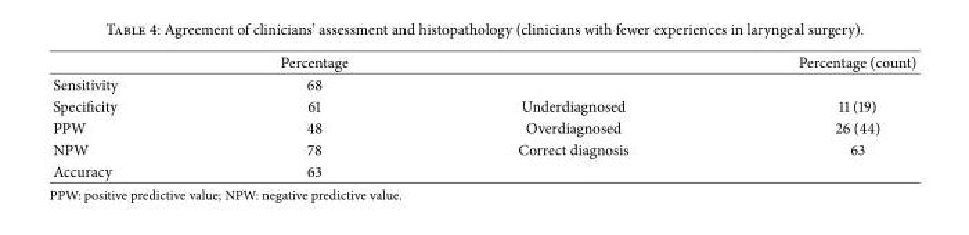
<table><thead><tr><td></td><td>Percentage</td><td></td><td>Percentage (count)</td></tr></thead><tbody><tr><td>Sensitivity</td><td>68</td><td></td><td></td></tr><tr><td>Specificity</td><td>61</td><td>Underdiagnosed</td><td>11 (19)</td></tr><tr><td>PPW</td><td>48</td><td>Overdiagnosed</td><td>26 (44)</td></tr><tr><td>NPW</td><td>78</td><td>Correct diagnosis</td><td>63</td></tr><tr><td>Accuracy</td><td>63</td><td></td><td></td></tr></tbody></table>